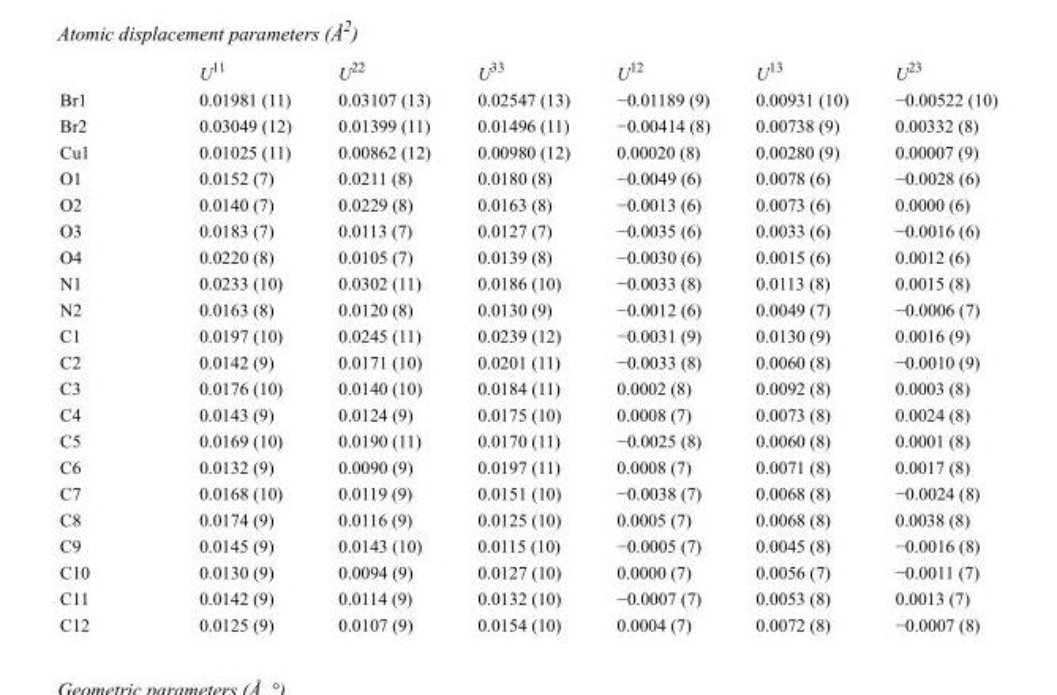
<table><thead><tr><td></td><td>U<sup>11</sup></td><td>U<sup>22</sup></td><td>U<sup>33</sup></td><td>U<sup>12</sup></td><td>U<sup>13</sup></td><td>U<sup>23</sup></td></tr></thead><tbody><tr><td>Br1</td><td>0.01981 (11)</td><td>0.03107 (13)</td><td>0.02547 (13)</td><td>−0.01189 (9)</td><td>0.00931 (10)</td><td>−0.00522 (10)</td></tr><tr><td>Br2</td><td>0.03049 (12)</td><td>0.01399 (11)</td><td>0.01496 (11)</td><td>−0.00414 (8)</td><td>0.00738 (9)</td><td>0.00332 (8)</td></tr><tr><td>Cu1</td><td>0.01025 (11)</td><td>0.00862 (12)</td><td>0.00980 (12)</td><td>0.00020 (8)</td><td>0.00280 (9)</td><td>0.00007 (9)</td></tr><tr><td>O1</td><td>0.0152 (7)</td><td>0.0211 (8)</td><td>0.0180 (8)</td><td>−0.0049 (6)</td><td>0.0078 (6)</td><td>−0.0028 (6)</td></tr><tr><td>O2</td><td>0.0140 (7)</td><td>0.0229 (8)</td><td>0.0163 (8)</td><td>−0.0013 (6)</td><td>0.0073 (6)</td><td>0.0000 (6)</td></tr><tr><td>O3</td><td>0.0183 (7)</td><td>0.0113 (7)</td><td>0.0127 (7)</td><td>−0.0035 (6)</td><td>0.0033 (6)</td><td>−0.0016 (6)</td></tr><tr><td>O4</td><td>0.0220 (8)</td><td>0.0105 (7)</td><td>0.0139 (8)</td><td>−0.0030 (6)</td><td>0.0015 (6)</td><td>0.0012 (6)</td></tr><tr><td>N1</td><td>0.0233 (10)</td><td>0.0302 (11)</td><td>0.0186 (10)</td><td>−0.0033 (8)</td><td>0.0113 (8)</td><td>0.0015 (8)</td></tr><tr><td>N2</td><td>0.0163 (8)</td><td>0.0120 (8)</td><td>0.0130 (9)</td><td>−0.0012 (6)</td><td>0.0049 (7)</td><td>−0.0006 (7)</td></tr><tr><td>C1</td><td>0.0197 (10)</td><td>0.0245 (11)</td><td>0.0239 (12)</td><td>−0.0031 (9)</td><td>0.0130 (9)</td><td>0.0016 (9)</td></tr><tr><td>C2</td><td>0.0142 (9)</td><td>0.0171 (10)</td><td>0.0201 (11)</td><td>−0.0033 (8)</td><td>0.0060 (8)</td><td>−0.0010 (9)</td></tr><tr><td>C3</td><td>0.0176 (10)</td><td>0.0140 (10)</td><td>0.0184 (11)</td><td>0.0002 (8)</td><td>0.0092 (8)</td><td>0.0003 (8)</td></tr><tr><td>C4</td><td>0.0143 (9)</td><td>0.0124 (9)</td><td>0.0175 (10)</td><td>0.0008 (7)</td><td>0.0073 (8)</td><td>0.0024 (8)</td></tr><tr><td>C5</td><td>0.0169 (10)</td><td>0.0190 (11)</td><td>0.0170 (11)</td><td>−0.0025 (8)</td><td>0.0060 (8)</td><td>0.0001 (8)</td></tr><tr><td>C6</td><td>0.0132 (9)</td><td>0.0090 (9)</td><td>0.0197 (11)</td><td>0.0008 (7)</td><td>0.0071 (8)</td><td>0.0017 (8)</td></tr><tr><td>C7</td><td>0.0168 (10)</td><td>0.0119 (9)</td><td>0.0151 (10)</td><td>−0.0038 (7)</td><td>0.0068 (8)</td><td>−0.0024 (8)</td></tr><tr><td>C8</td><td>0.0174 (9)</td><td>0.0116 (9)</td><td>0.0125 (10)</td><td>0.0005 (7)</td><td>0.0068 (8)</td><td>0.0038 (8)</td></tr><tr><td>C9</td><td>0.0145 (9)</td><td>0.0143 (10)</td><td>0.0115 (10)</td><td>−0.0005 (7)</td><td>0.0045 (8)</td><td>−0.0016 (8)</td></tr><tr><td>C10</td><td>0.0130 (9)</td><td>0.0094 (9)</td><td>0.0127 (10)</td><td>0.0000 (7)</td><td>0.0056 (7)</td><td>−0.0011 (7)</td></tr><tr><td>C11</td><td>0.0142 (9)</td><td>0.0114 (9)</td><td>0.0132 (10)</td><td>−0.0007 (7)</td><td>0.0053 (8)</td><td>0.0013 (7)</td></tr><tr><td>C12</td><td>0.0125 (9)</td><td>0.0107 (9)</td><td>0.0154 (10)</td><td>0.0004 (7)</td><td>0.0072 (8)</td><td>−0.0007 (8)</td></tr></tbody></table>